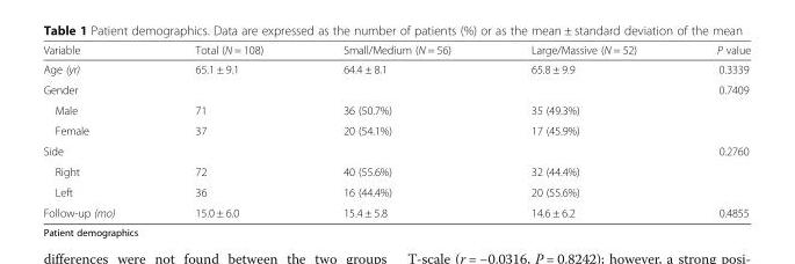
<table><thead><tr><td>Variable</td><td>Total (N = 108)</td><td>Small/Medium (N = 56)</td><td>Large/Massive (N = 52)</td><td>P value</td></tr></thead><tbody><tr><td>Age (yr)</td><td>65.1 ± 9.1</td><td>64.4 ± 8.1</td><td>65.8 ± 9.9</td><td>0.3339</td></tr><tr><td colspan="4">Gender</td><td>0.7409</td></tr><tr><td>Male</td><td>71</td><td>36 (50.7%)</td><td>35 (49.3%)</td><td></td></tr><tr><td>Female</td><td>37</td><td>20 (54.1%)</td><td>17 (45.9%)</td><td></td></tr><tr><td colspan="4">Side</td><td>0.2760</td></tr><tr><td>Right</td><td>72</td><td>40 (55.6%)</td><td>32 (44.4%)</td><td></td></tr><tr><td>Left</td><td>36</td><td>16 (44.4%)</td><td>20 (55.6%)</td><td></td></tr><tr><td>Follow-up (mo)</td><td>15.0 ± 6.0</td><td>15.4 ± 5.8</td><td>14.6 ± 6.2</td><td>0.4855</td></tr></tbody></table>